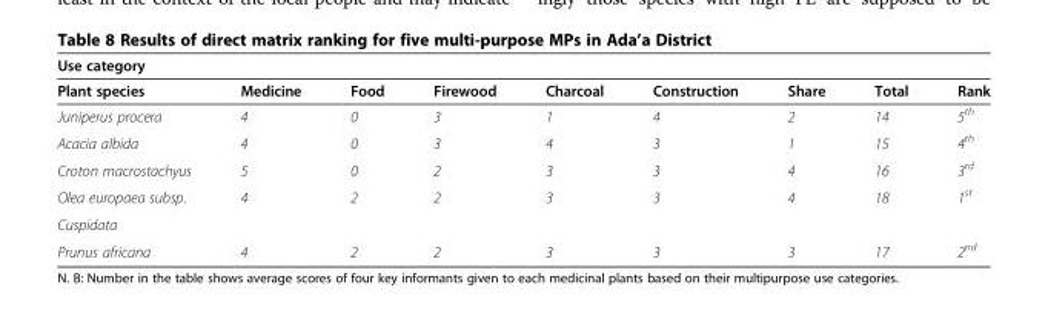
<table><thead><tr><td colspan="9">Use category</td></tr><tr><td>Plant species</td><td>Medicine</td><td>Food</td><td>Firewood</td><td>Charcoal</td><td>Construction</td><td>Share</td><td>Total</td><td>Rank</td></tr></thead><tbody><tr><td>Juniperus procera</td><td>4</td><td>0</td><td>3</td><td>1</td><td>4</td><td>2</td><td>14</td><td>5<sup>th</sup></td></tr><tr><td>Acacia albida</td><td>4</td><td>0</td><td>3</td><td>4</td><td>3</td><td>1</td><td>15</td><td>4<sup>th</sup></td></tr><tr><td>Croton macrostachyus</td><td>5</td><td>0</td><td>2</td><td>3</td><td>3</td><td>4</td><td>16</td><td>3<sup>rd</sup></td></tr><tr><td>Olea europaea subsp.</td><td>4</td><td>2</td><td>2</td><td>3</td><td>3</td><td>4</td><td>18</td><td>1<sup>st</sup></td></tr><tr><td colspan="9">Cuspidata</td></tr><tr><td>Prunus africana</td><td>4</td><td>2</td><td>2</td><td>3</td><td>3</td><td>3</td><td>17</td><td>2<sup>nd</sup></td></tr></tbody></table>